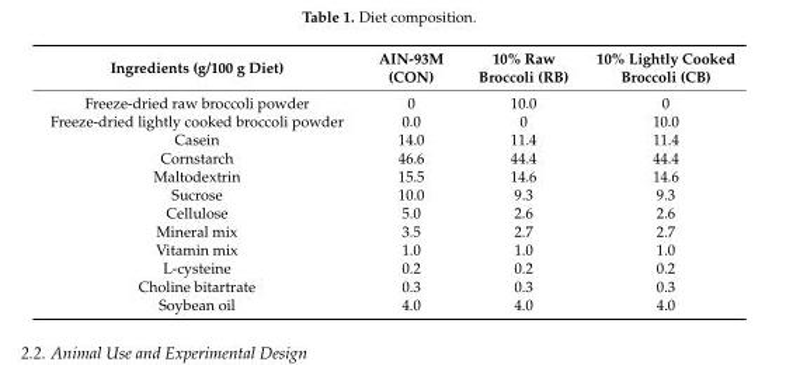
<table><thead><tr><td>Ingredients (g/100 g Diet)</td><td>AIN-93M (CON)</td><td>10% Raw Broccoli (RB)</td><td>10% Lightly Cooked Broccoli (CB)</td></tr></thead><tbody><tr><td>Freeze-dried raw broccoli powder</td><td>0</td><td>10.0</td><td>0</td></tr><tr><td>Freeze-dried lightly cooked broccoli powder</td><td>0.0</td><td>0</td><td>10.0</td></tr><tr><td>Casein</td><td>14.0</td><td>11.4</td><td>11.4</td></tr><tr><td>Cornstarch</td><td>46.6</td><td>44.4</td><td>44.4</td></tr><tr><td>Maltodextrin</td><td>15.5</td><td>14.6</td><td>14.6</td></tr><tr><td>Sucrose</td><td>10.0</td><td>9.3</td><td>9.3</td></tr><tr><td>Cellulose</td><td>5.0</td><td>2.6</td><td>2.6</td></tr><tr><td>Mineral mix</td><td>3.5</td><td>2.7</td><td>2.7</td></tr><tr><td>Vitamin mix</td><td>1.0</td><td>1.0</td><td>1.0</td></tr><tr><td>L-cysteine</td><td>0.2</td><td>0.2</td><td>0.2</td></tr><tr><td>Choline bitartrate</td><td>0.3</td><td>0.3</td><td>0.3</td></tr><tr><td>Soybean oil</td><td>4.0</td><td>4.0</td><td>4.0</td></tr></tbody></table>